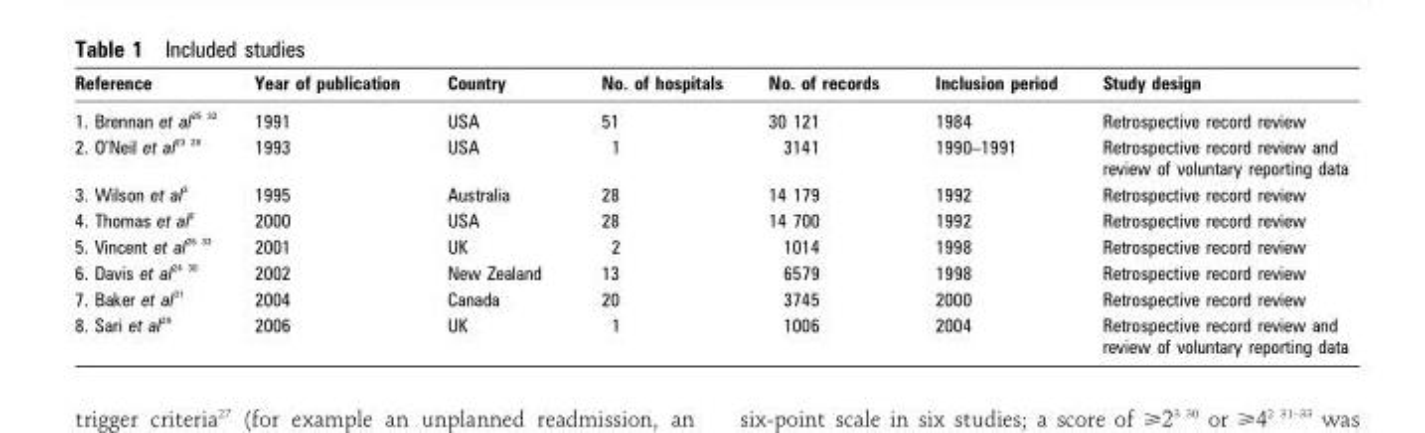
<table><thead><tr><td>Reference</td><td>Year of publication</td><td>Country</td><td>No. of hospitals</td><td>No. of records</td><td>Inclusion period</td><td>Study design</td></tr></thead><tbody><tr><td>1. Brennan et al 25 32</td><td>1991</td><td>USA</td><td>51</td><td>30 121</td><td>1984</td><td>Retrospective record review</td></tr><tr><td>2. O’Neil et al 23 28</td><td>1993</td><td>USA</td><td>1</td><td>3141</td><td>1990–1991</td><td>Retrospective record review and review of voluntary reporting data</td></tr><tr><td>3. Wilson et al <sup>3</sup></td><td>1995</td><td>Australia</td><td>28</td><td>14 179</td><td>1992</td><td>Retrospective record review</td></tr><tr><td>4. Thomas et al <sup>2</sup></td><td>2000</td><td>USA</td><td>28</td><td>14 700</td><td>1992</td><td>Retrospective record review</td></tr><tr><td>5. Vincent et al 26 33</td><td>2001</td><td>UK</td><td>2</td><td>1014</td><td>1998</td><td>Retrospective record review</td></tr><tr><td>6. Davis et al 24 30</td><td>2002</td><td>New Zealand</td><td>13</td><td>6579</td><td>1998</td><td>Retrospective record review</td></tr><tr><td>7. Baker et al <sup>31</sup></td><td>2004</td><td>Canada</td><td>20</td><td>3745</td><td>2000</td><td>Retrospective record review</td></tr><tr><td>8. Sari et al <sup>29</sup></td><td>2006</td><td>UK</td><td>1</td><td>1006</td><td>2004</td><td>Retrospective record review and review of voluntary reporting data</td></tr></tbody></table>